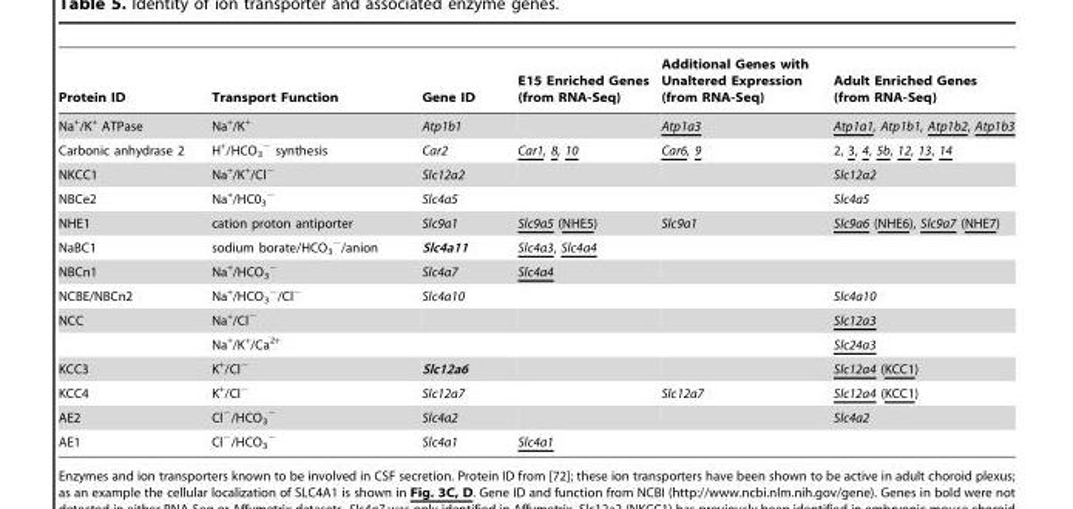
<table><thead><tr><td>Protein ID</td><td>Transport Function</td><td>Gene ID</td><td>E15 Enriched Genes (from RNA-Seq)</td><td>Additional Genes with Unaltered Expression (from RNA-Seq)</td><td>Adult Enriched Genes (from RNA-Seq)</td></tr></thead><tbody><tr><td>Na<sup>+</sup>/K<sup>+</sup> ATPase</td><td>Na<sup>+</sup>/K<sup>+</sup></td><td>Atp1b1</td><td></td><td>Atp1a3</td><td>Atp1a1, Atp1b1, Atp1b2, Atp1b3</td></tr><tr><td>Carbonic anhydrase 2</td><td>H<sup>+</sup>/HCO<sub>3</sub> <sup>−</sup> synthesis</td><td>Car2</td><td>Car1, 8, 10</td><td>Car6, 9</td><td>2, 3, 4, 5b, 12, 13, 14</td></tr><tr><td>NKCC1</td><td>Na<sup>+</sup>/K<sup>+</sup>/Cl<sup>−</sup></td><td>Slc12a2</td><td></td><td></td><td>Slc12a2</td></tr><tr><td>NBCe2</td><td>Na<sup>+</sup>/HC0<sub>3</sub> <sup>−</sup></td><td>Slc4a5</td><td></td><td></td><td>Slc4a5</td></tr><tr><td>NHE1</td><td>cation proton antiporter</td><td>Slc9a1</td><td>Slc9a5 (NHE5)</td><td>Slc9a1</td><td>Slc9a6 (NHE6), Slc9a7 (NHE7)</td></tr><tr><td>NaBC1</td><td>sodium borate/HCO<sub>3</sub> <sup>−</sup>/anion</td><td>Slc4a11</td><td>Slc4a3, Slc4a4</td><td></td><td></td></tr><tr><td>NBCn1</td><td>Na<sup>+</sup>/HCO<sub>3</sub> <sup>−</sup></td><td>Slc4a7</td><td>Slc4a4</td><td></td><td></td></tr><tr><td>NCBE/NBCn2</td><td>Na<sup>+</sup>/HCO<sub>3</sub> <sup>−</sup>/Cl<sup>−</sup></td><td>Slc4a10</td><td></td><td></td><td>Slc4a10</td></tr><tr><td rowspan="2">NCC</td><td>Na<sup>+</sup>/Cl<sup>−</sup></td><td></td><td></td><td></td><td>Slc12a3</td></tr><tr><td>Na<sup>+</sup>/K<sup>+</sup>/Ca<sup>2+</sup></td><td></td><td></td><td></td><td>Slc24a3</td></tr><tr><td>KCC3</td><td>K<sup>+</sup>/Cl<sup>−</sup></td><td>Slc12a6</td><td></td><td></td><td>Slc12a4 (KCC1)</td></tr><tr><td>KCC4</td><td>K<sup>+</sup>/Cl<sup>−</sup></td><td>Slc12a7</td><td></td><td>Slc12a7</td><td>Slc12a4 (KCC1)</td></tr><tr><td>AE2</td><td>Cl<sup>−</sup>/HCO<sub>3</sub> <sup>−</sup></td><td>Slc4a2</td><td></td><td></td><td>Slc4a2</td></tr><tr><td>AE1</td><td>Cl<sup>−</sup>/HCO<sub>3</sub> <sup>−</sup></td><td>Slc4a1</td><td>Slc4a1</td><td></td><td></td></tr></tbody></table>